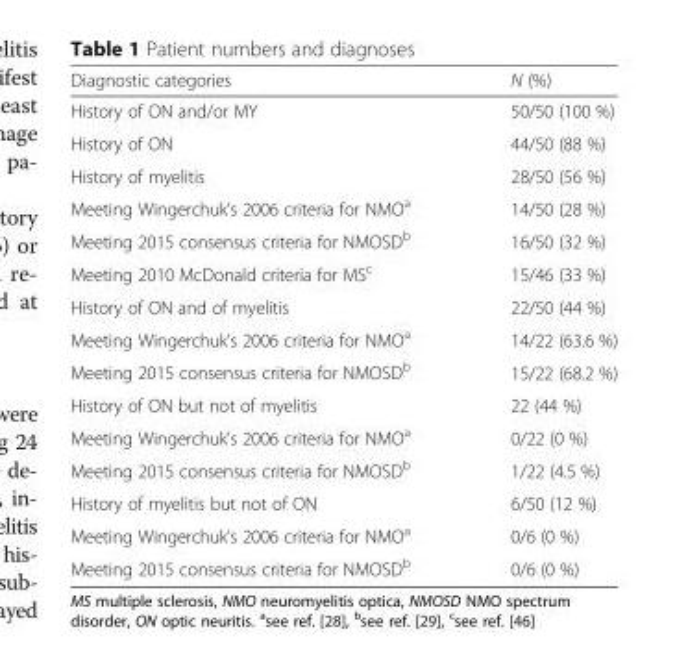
<table><thead><tr><td>Diagnostic categories</td><td>N (%)</td></tr></thead><tbody><tr><td>History of ON and/or MY</td><td>50/50 (100 %)</td></tr><tr><td>History of ON</td><td>44/50 (88 %)</td></tr><tr><td>History of myelitis</td><td>28/50 (56 %)</td></tr><tr><td>Meeting Wingerchuk’s 2006 criteria for NMO<sup>a</sup></td><td>14/50 (28 %)</td></tr><tr><td>Meeting 2015 consensus criteria for NMOSD<sup>b</sup></td><td>16/50 (32 %)</td></tr><tr><td>Meeting 2010 McDonald criteria for MS<sup>c</sup></td><td>15/46 (33 %)</td></tr><tr><td>History of ON and of myelitis</td><td>22/50 (44 %)</td></tr><tr><td>Meeting Wingerchuk’s 2006 criteria for NMO<sup>a</sup></td><td>14/22 (63.6 %)</td></tr><tr><td>Meeting 2015 consensus criteria for NMOSD<sup>b</sup></td><td>15/22 (68.2 %)</td></tr><tr><td>History of ON but not of myelitis</td><td>22 (44 %)</td></tr><tr><td>Meeting Wingerchuk’s 2006 criteria for NMO<sup>a</sup></td><td>0/22 (0 %)</td></tr><tr><td>Meeting 2015 consensus criteria for NMOSD<sup>b</sup></td><td>1/22 (4.5 %)</td></tr><tr><td>History of myelitis but not of ON</td><td>6/50 (12 %)</td></tr><tr><td>Meeting Wingerchuk’s 2006 criteria for NMO<sup>a</sup></td><td>0/6 (0 %)</td></tr><tr><td>Meeting 2015 consensus criteria for NMOSD<sup>b</sup></td><td>0/6 (0 %)</td></tr></tbody></table>